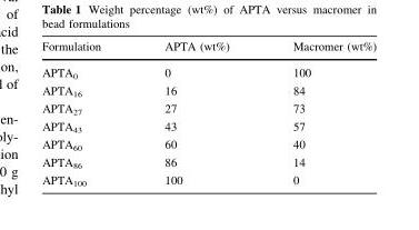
<table><thead><tr><td>Formulation</td><td>APTA (wt%)</td><td>Macromer (wt%)</td></tr></thead><tbody><tr><td>APTA<sub>0</sub></td><td>0</td><td>100</td></tr><tr><td>APTA<sub>16</sub></td><td>16</td><td>84</td></tr><tr><td>APTA<sub>27</sub></td><td>27</td><td>73</td></tr><tr><td>APTA<sub>43</sub></td><td>43</td><td>57</td></tr><tr><td>APTA<sub>60</sub></td><td>60</td><td>40</td></tr><tr><td>APTA<sub>86</sub></td><td>86</td><td>14</td></tr><tr><td>APTA<sub>100</sub></td><td>100</td><td>0</td></tr></tbody></table>